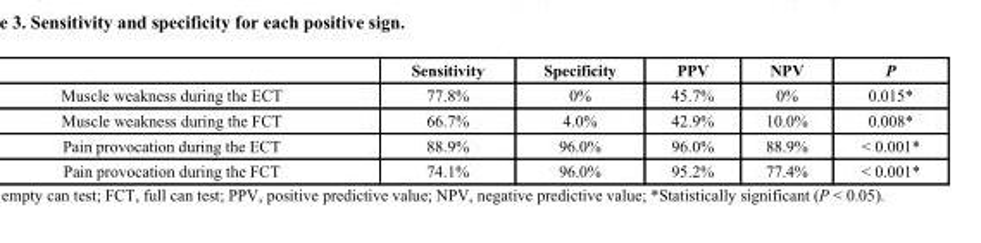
<table><thead><tr><td></td><td>Sensitivity</td><td>Specificity</td><td>PPV</td><td>NPV</td><td>P</td></tr></thead><tbody><tr><td>Muscle weakness during the ECT</td><td>77.8%</td><td>0%</td><td>45.7%</td><td>0%</td><td>0.015*</td></tr><tr><td>Muscle weakness during the FCT</td><td>66.7%</td><td>4.0%</td><td>42.9%</td><td>10.0%</td><td>0.008*</td></tr><tr><td>Pain provocation during the ECT</td><td>88.9%</td><td>96.0%</td><td>96.0%</td><td>88.9%</td><td>&lt; 0.001*</td></tr><tr><td>Pain provocation during the FCT</td><td>74.1%</td><td>96.0%</td><td>95.2%</td><td>77.4%</td><td>&lt; 0.001*</td></tr></tbody></table>